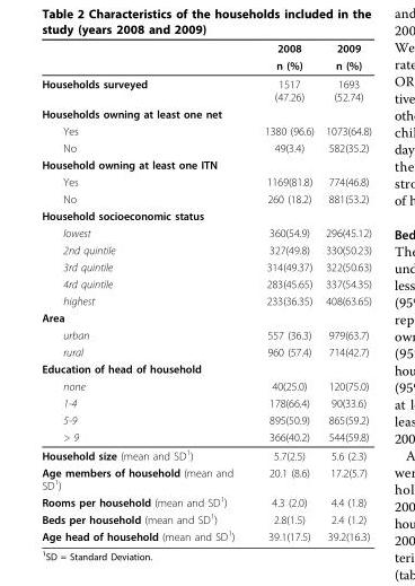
<table><thead><tr><td rowspan="2"></td><td rowspan="2">2008 n (%)</td><td rowspan="2">2009 n (%)</td></tr><tr></tr></thead><tbody><tr><td>Households surveyed</td><td>1517 (47.26)</td><td>1693 (52.74)</td></tr><tr><td colspan="3">Households owning at least one net</td></tr><tr><td>Yes</td><td>1380 (96.6)</td><td>1073(64.8)</td></tr><tr><td>No</td><td>49(3.4)</td><td>582(35.2)</td></tr><tr><td colspan="3">Household owning at least one ITN</td></tr><tr><td>Yes</td><td>1169(81.8)</td><td>774(46.8)</td></tr><tr><td>No</td><td>260 (18.2)</td><td>881(53.2)</td></tr><tr><td colspan="3">Household socioeconomic status</td></tr><tr><td>lowest</td><td>360(54.9)</td><td>296(45.12)</td></tr><tr><td>2nd quintile</td><td>327(49.8)</td><td>330(50.23)</td></tr><tr><td>3rd quintile</td><td>314(49.37)</td><td>322(50.63)</td></tr><tr><td>4rd quintile</td><td>283(45.65)</td><td>337(54.35)</td></tr><tr><td>highest</td><td>233(36.35)</td><td>408(63.65)</td></tr><tr><td colspan="3">Area</td></tr><tr><td>urban</td><td>557 (36.3)</td><td>979(63.7)</td></tr><tr><td>rural</td><td>960 (57.4)</td><td>714(42.7)</td></tr><tr><td colspan="3">Education of head of household</td></tr><tr><td>none</td><td>40(25.0)</td><td>120(75.0)</td></tr><tr><td>1-4</td><td>178(66.4)</td><td>90(33.6)</td></tr><tr><td>5-9</td><td>895(50.9)</td><td>865(59.2)</td></tr><tr><td>&gt; 9</td><td>366(40.2)</td><td>544(59.8)</td></tr><tr><td>Household size (mean and SD<sup>1</sup>)</td><td>5.7(2.5)</td><td>5.6 (2.3)</td></tr><tr><td>Age members of household (mean and SD<sup>1</sup>)</td><td>20.1 (8.6)</td><td>17.2(5.7)</td></tr><tr><td>Rooms per household (mean and SD<sup>1</sup>)</td><td>4.3 (2.0)</td><td>4.4 (1.8)</td></tr><tr><td>Beds per household (mean and SD<sup>1</sup>)</td><td>2.8(1.5)</td><td>2.4 (1.2)</td></tr><tr><td>Age head of household (mean and SD<sup>1</sup>)</td><td>39.1(17.5)</td><td>39.2(16.3)</td></tr></tbody></table>